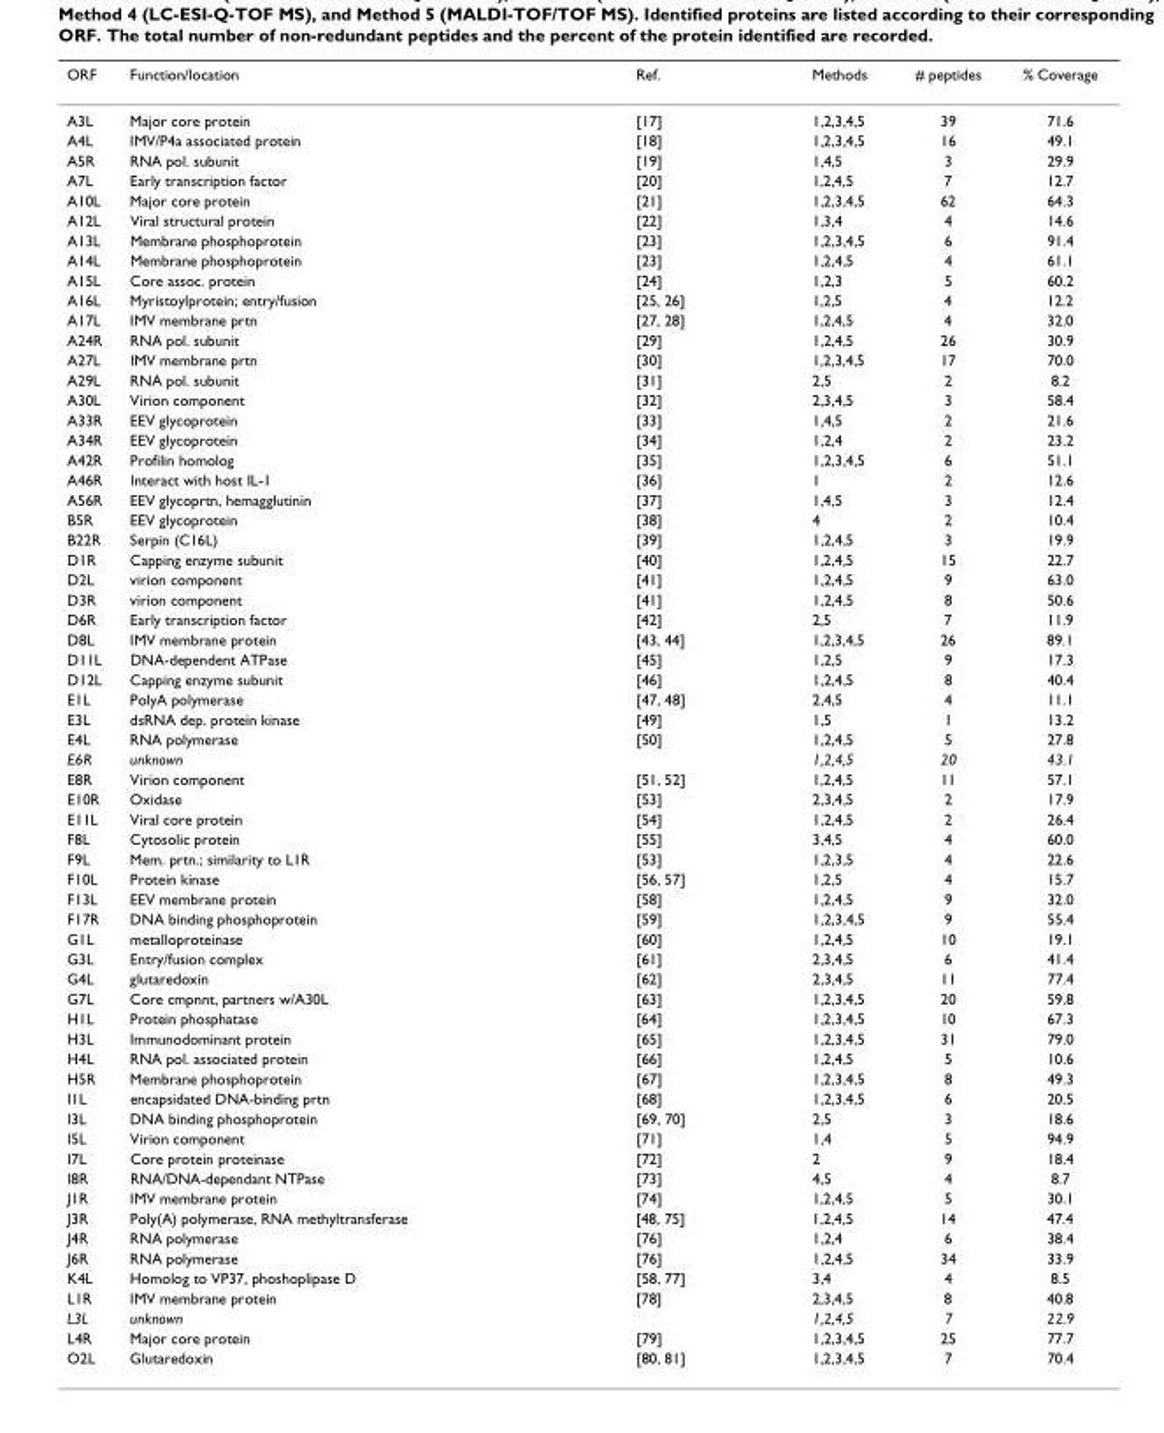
<table><thead><tr><td>ORF</td><td>Function/location</td><td>Ref.</td><td>Methods</td><td># peptides</td><td>% Coverage</td></tr></thead><tbody><tr><td>A3L</td><td>Major core protein</td><td>[17]</td><td>1,2,3,4,5</td><td>39</td><td>71.6</td></tr><tr><td>A4L</td><td>IMV/P4a associated protein</td><td>[18]</td><td>1,2,3,4,5</td><td>16</td><td>49.1</td></tr><tr><td>A5R</td><td>RNA pol. subunit</td><td>[19]</td><td>1,4,5</td><td>3</td><td>29.9</td></tr><tr><td>A7L</td><td>Early transcription factor</td><td>[20]</td><td>1,2,4,5</td><td>7</td><td>12.7</td></tr><tr><td>A10L</td><td>Major core protein</td><td>[21]</td><td>1,2,3,4,5</td><td>62</td><td>64.3</td></tr><tr><td>A12L</td><td>Viral structural protein</td><td>[22]</td><td>1,3,4</td><td>4</td><td>14.6</td></tr><tr><td>A13L</td><td>Membrane phosphoprotein</td><td>[23]</td><td>1,2,3,4,5</td><td>6</td><td>91.4</td></tr><tr><td>A14L</td><td>Membrane phosphoprotein</td><td>[23]</td><td>1,2,4,5</td><td>4</td><td>61.1</td></tr><tr><td>A15L</td><td>Core assoc. protein</td><td>[24]</td><td>1,2,3</td><td>5</td><td>60.2</td></tr><tr><td>A16L</td><td>Myristoylprotein; entry/fusion</td><td>[25, 26]</td><td>1,2,5</td><td>4</td><td>12.2</td></tr><tr><td>A17L</td><td>IMV membrane prtn</td><td>[27, 28]</td><td>1,2,4,5</td><td>4</td><td>32.0</td></tr><tr><td>A24R</td><td>RNA pol. subunit</td><td>[29]</td><td>1,2,4,5</td><td>26</td><td>30.9</td></tr><tr><td>A27L</td><td>IMV membrane prtn</td><td>[30]</td><td>1,2,3,4,5</td><td>17</td><td>70.0</td></tr><tr><td>A29L</td><td>RNA pol. subunit</td><td>[31]</td><td>2,5</td><td>2</td><td>8.2</td></tr><tr><td>A30L</td><td>Virion component</td><td>[32]</td><td>2,3,4,5</td><td>3</td><td>58.4</td></tr><tr><td>A33R</td><td>EEV glycoprotein</td><td>[33]</td><td>1,4,5</td><td>2</td><td>21.6</td></tr><tr><td>A34R</td><td>EEV glycoprotein</td><td>[34]</td><td>1,2,4</td><td>2</td><td>23.2</td></tr><tr><td>A42R</td><td>Profilin homolog</td><td>[35]</td><td>1,2,3,4,5</td><td>6</td><td>51.1</td></tr><tr><td>A46R</td><td>Interact with host IL-1</td><td>[36]</td><td>1</td><td>2</td><td>12.6</td></tr><tr><td>A56R</td><td>EEV glycoprtn, hemagglutinin</td><td>[37]</td><td>1,4,5</td><td>3</td><td>12.4</td></tr><tr><td>B5R</td><td>EEV glycoprotein</td><td>[38]</td><td>4</td><td>2</td><td>10.4</td></tr><tr><td>B22R</td><td>Serpin (C16L)</td><td>[39]</td><td>1,2,4,5</td><td>3</td><td>19.9</td></tr><tr><td>D1R</td><td>Capping enzyme subunit</td><td>[40]</td><td>1,2,4,5</td><td>15</td><td>22.7</td></tr><tr><td>D2L</td><td>virion component</td><td>[41]</td><td>1,2,4,5</td><td>9</td><td>63.0</td></tr><tr><td>D3R</td><td>virion component</td><td>[41]</td><td>1,2,4,5</td><td>8</td><td>50.6</td></tr><tr><td>D6R</td><td>Early transcription factor</td><td>[42]</td><td>2,5</td><td>7</td><td>11.9</td></tr><tr><td>D8L</td><td>IMV membrane protein</td><td>[43, 44]</td><td>1,2,3,4,5</td><td>26</td><td>89.1</td></tr><tr><td>D11L</td><td>DNA-dependent ATPase</td><td>[45]</td><td>1,2,5</td><td>9</td><td>17.3</td></tr><tr><td>D12L</td><td>Capping enzyme subunit</td><td>[46]</td><td>1,2,4,5</td><td>8</td><td>40.4</td></tr><tr><td>E1L</td><td>PolyA polymerase</td><td>[47, 48]</td><td>2,4,5</td><td>4</td><td>11.1</td></tr><tr><td>E3L</td><td>dsRNA dep. protein kinase</td><td>[49]</td><td>1,5</td><td>1</td><td>13.2</td></tr><tr><td>E4L</td><td>RNA polymerase</td><td>[50]</td><td>1,2,4,5</td><td>5</td><td>27.8</td></tr><tr><td>E6R</td><td>unknown</td><td></td><td>1,2,4,5</td><td>20</td><td>43.1</td></tr><tr><td>E8R</td><td>Virion component</td><td>[51, 52]</td><td>1,2,4,5</td><td>11</td><td>57.1</td></tr><tr><td>E10R</td><td>Oxidase</td><td>[53]</td><td>2,3,4,5</td><td>2</td><td>17.9</td></tr><tr><td>E11L</td><td>Viral core protein</td><td>[54]</td><td>1,2,4,5</td><td>2</td><td>26.4</td></tr><tr><td>F8L</td><td>Cytosolic protein</td><td>[55]</td><td>3,4,5</td><td>4</td><td>60.0</td></tr><tr><td>F9L</td><td>Mem. prtn.; similarity to L1R</td><td>[53]</td><td>1,2,3,5</td><td>4</td><td>22.6</td></tr><tr><td>F10L</td><td>Protein kinase</td><td>[56, 57]</td><td>1,2,5</td><td>4</td><td>15.7</td></tr><tr><td>F13L</td><td>EEV membrane protein</td><td>[58]</td><td>1,2,4,5</td><td>9</td><td>32.0</td></tr><tr><td>F17R</td><td>DNA binding phosphoprotein</td><td>[59]</td><td>1,2,3,4,5</td><td>9</td><td>55.4</td></tr><tr><td>G1L</td><td>metalloproteinase</td><td>[60]</td><td>1,2,4,5</td><td>10</td><td>19.1</td></tr><tr><td>G3L</td><td>Entry/fusion complex</td><td>[61]</td><td>2,3,4,5</td><td>6</td><td>41.4</td></tr><tr><td>G4L</td><td>glutaredoxin</td><td>[62]</td><td>2,3,4,5</td><td>11</td><td>77.4</td></tr><tr><td>G7L</td><td>Core cmpnnt, partners w/A30L</td><td>[63]</td><td>1,2,3,4,5</td><td>20</td><td>59.8</td></tr><tr><td>H1L</td><td>Protein phosphatase</td><td>[64]</td><td>1,2,3,4,5</td><td>10</td><td>67.3</td></tr><tr><td>H3L</td><td>Immunodominant protein</td><td>[65]</td><td>1,2,3,4,5</td><td>31</td><td>79.0</td></tr><tr><td>H4L</td><td>RNA pol. associated protein</td><td>[66]</td><td>1,2,4,5</td><td>5</td><td>10.6</td></tr><tr><td>H5R</td><td>Membrane phosphoprotein</td><td>[67]</td><td>1,2,3,4,5</td><td>8</td><td>49.3</td></tr><tr><td>I1L</td><td>encapsidated DNA-binding prtn</td><td>[68]</td><td>1,2,3,4,5</td><td>6</td><td>20.5</td></tr><tr><td>I3L</td><td>DNA binding phosphoprotein</td><td>[69, 70]</td><td>2,5</td><td>3</td><td>18.6</td></tr><tr><td>I5L</td><td>Virion component</td><td>[71]</td><td>1,4</td><td>5</td><td>94.9</td></tr><tr><td>I7L</td><td>Core protein proteinase</td><td>[72]</td><td>2</td><td>9</td><td>18.4</td></tr><tr><td>I8R</td><td>RNA/DNA-dependant NTPase</td><td>[73]</td><td>4,5</td><td>4</td><td>8.7</td></tr><tr><td>J1R</td><td>IMV membrane protein</td><td>[74]</td><td>1,2,4,5</td><td>5</td><td>30.1</td></tr><tr><td>J3R</td><td>Poly(A) polymerase, RNA methyltransferase</td><td>[48, 75]</td><td>1,2,4,5</td><td>14</td><td>47.4</td></tr><tr><td>J4R</td><td>RNA polymerase</td><td>[76]</td><td>1,2,4</td><td>6</td><td>38.4</td></tr><tr><td>J6R</td><td>RNA polymerase</td><td>[76]</td><td>1,2,4,5</td><td>34</td><td>33.9</td></tr><tr><td>K4L</td><td>Homolog to VP37, phoshoplipase D</td><td>[58, 77]</td><td>3,4</td><td>4</td><td>8.5</td></tr><tr><td>L1R</td><td>IMV membrane protein</td><td>[78]</td><td>2,3,4,5</td><td>8</td><td>40.8</td></tr><tr><td>L3L</td><td>unknown</td><td></td><td>1,2,4,5</td><td>7</td><td>22.9</td></tr><tr><td>L4R</td><td>Major core protein</td><td>[79]</td><td>1,2,3,4,5</td><td>25</td><td>77.7</td></tr><tr><td>O2L</td><td>Glutaredoxin</td><td>[80, 81]</td><td>1,2,3,4,5</td><td>7</td><td>70.4</td></tr></tbody></table>